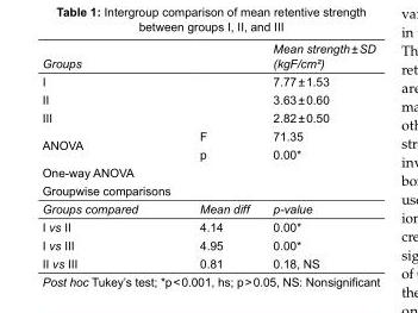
<table><tbody><tr><td>Groups</td><td></td><td>Mean strength ± SD (kgF/cm²)</td></tr><tr><td>I</td><td></td><td>7.77 ± 1.53</td></tr><tr><td>II</td><td></td><td>3.63 ± 0.60</td></tr><tr><td>III</td><td></td><td>2.82 ± 0.50</td></tr><tr><td rowspan="2">ANOVA</td><td>F</td><td>71.35</td></tr><tr><td>p</td><td>0.00*</td></tr><tr><td colspan="3">One-way ANOVA</td></tr><tr><td colspan="3">Groupwise comparisons</td></tr><tr><td>Groups compared</td><td>Mean diff</td><td>p-value</td></tr><tr><td>I vs II</td><td>4.14</td><td>0.00*</td></tr><tr><td>I vs III</td><td>4.95</td><td>0.00*</td></tr><tr><td>II vs III</td><td>0.81</td><td>0.18, NS</td></tr></tbody></table>